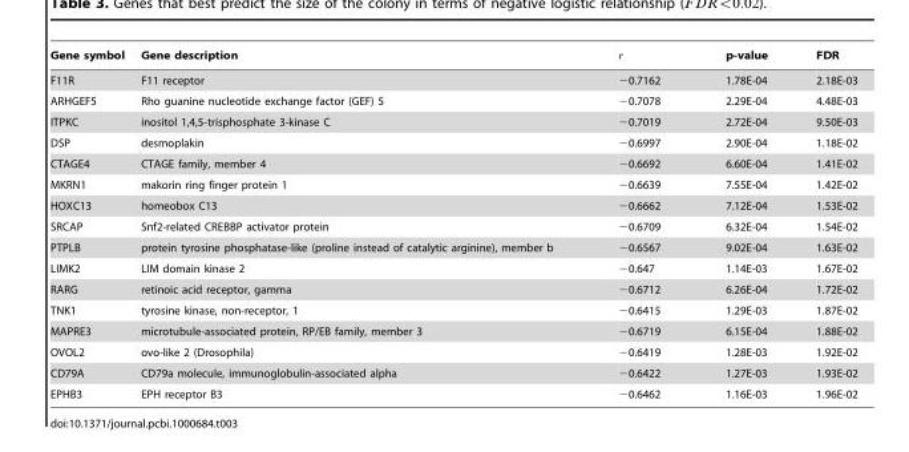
<table><thead><tr><td>Gene symbol</td><td>Gene description</td><td>r</td><td>p-value</td><td>FDR</td></tr></thead><tbody><tr><td>F11R</td><td>F11 receptor</td><td>−0.7162</td><td>1.78E-04</td><td>2.18E-03</td></tr><tr><td>ARHGEF5</td><td>Rho guanine nucleotide exchange factor (GEF) 5</td><td>−0.7078</td><td>2.29E-04</td><td>4.48E-03</td></tr><tr><td>ITPKC</td><td>inositol 1,4,5-trisphosphate 3-kinase C</td><td>−0.7019</td><td>2.72E-04</td><td>9.50E-03</td></tr><tr><td>DSP</td><td>desmoplakin</td><td>−0.6997</td><td>2.90E-04</td><td>1.18E-02</td></tr><tr><td>CTAGE4</td><td>CTAGE family, member 4</td><td>−0.6692</td><td>6.60E-04</td><td>1.41E-02</td></tr><tr><td>MKRN1</td><td>makorin ring finger protein 1</td><td>−0.6639</td><td>7.55E-04</td><td>1.42E-02</td></tr><tr><td>HOXC13</td><td>homeobox C13</td><td>−0.6662</td><td>7.12E-04</td><td>1.53E-02</td></tr><tr><td>SRCAP</td><td>Snf2-related CREBBP activator protein</td><td>−0.6709</td><td>6.32E-04</td><td>1.54E-02</td></tr><tr><td>PTPLB</td><td>protein tyrosine phosphatase-like (proline instead of catalytic arginine), member b</td><td>−0.6567</td><td>9.02E-04</td><td>1.63E-02</td></tr><tr><td>LIMK2</td><td>LIM domain kinase 2</td><td>−0.647</td><td>1.14E-03</td><td>1.67E-02</td></tr><tr><td>RARG</td><td>retinoic acid receptor, gamma</td><td>−0.6712</td><td>6.26E-04</td><td>1.72E-02</td></tr><tr><td>TNK1</td><td>tyrosine kinase, non-receptor, 1</td><td>−0.6415</td><td>1.29E-03</td><td>1.87E-02</td></tr><tr><td>MAPRE3</td><td>microtubule-associated protein, RP/EB family, member 3</td><td>−0.6719</td><td>6.15E-04</td><td>1.88E-02</td></tr><tr><td>OVOL2</td><td>ovo-like 2 (Drosophila)</td><td>−0.6419</td><td>1.28E-03</td><td>1.92E-02</td></tr><tr><td>CD79A</td><td>CD79a molecule, immunoglobulin-associated alpha</td><td>−0.6422</td><td>1.27E-03</td><td>1.93E-02</td></tr><tr><td>EPHB3</td><td>EPH receptor B3</td><td>−0.6462</td><td>1.16E-03</td><td>1.96E-02</td></tr></tbody></table>